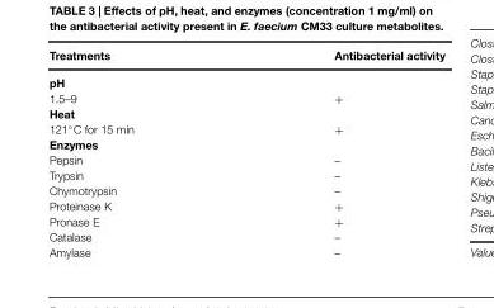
<table><thead><tr><td>Treatments</td><td>Antibacterial activity</td></tr></thead><tbody><tr><td>pH 1.5–9 Heat 121◦C for 15 min Enzymes Pepsin Trypsin Chymotrypsin Proteinase K Pronase E Catalase Amylase</td><td>+ + – – – + + – –</td></tr></tbody></table>